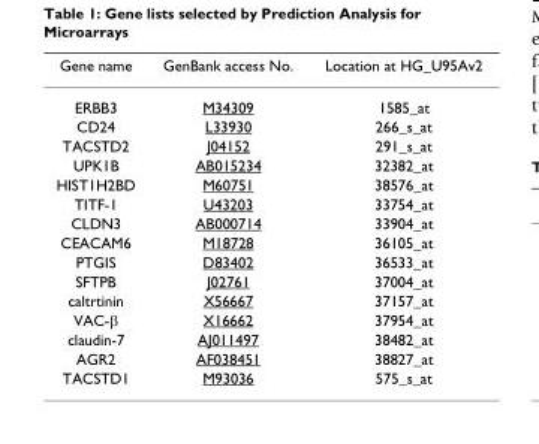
<table><thead><tr><td>Gene name</td><td>GenBank access No.</td><td>Location at HG_U95Av2</td></tr></thead><tbody><tr><td>ERBB3</td><td>M34309</td><td>1585_at</td></tr><tr><td>CD24</td><td>L33930</td><td>266_s_at</td></tr><tr><td>TACSTD2</td><td>J04152</td><td>291_s_at</td></tr><tr><td>UPK1B</td><td>AB015234</td><td>32382_at</td></tr><tr><td>HIST1H2BD</td><td>M60751</td><td>38576_at</td></tr><tr><td>TITF-1</td><td>U43203</td><td>33754_at</td></tr><tr><td>CLDN3</td><td>AB000714</td><td>33904_at</td></tr><tr><td>CEACAM6</td><td>M18728</td><td>36105_at</td></tr><tr><td>PTGIS</td><td>D83402</td><td>36533_at</td></tr><tr><td>SFTPB</td><td>J02761</td><td>37004_at</td></tr><tr><td>caltrtinin</td><td>X56667</td><td>37157_at</td></tr><tr><td>VAC-β</td><td>X16662</td><td>37954_at</td></tr><tr><td>claudin-7</td><td>AJ011497</td><td>38482_at</td></tr><tr><td>AGR2</td><td>AF038451</td><td>38827_at</td></tr><tr><td>TACSTD1</td><td>M93036</td><td>575_s_at</td></tr></tbody></table>